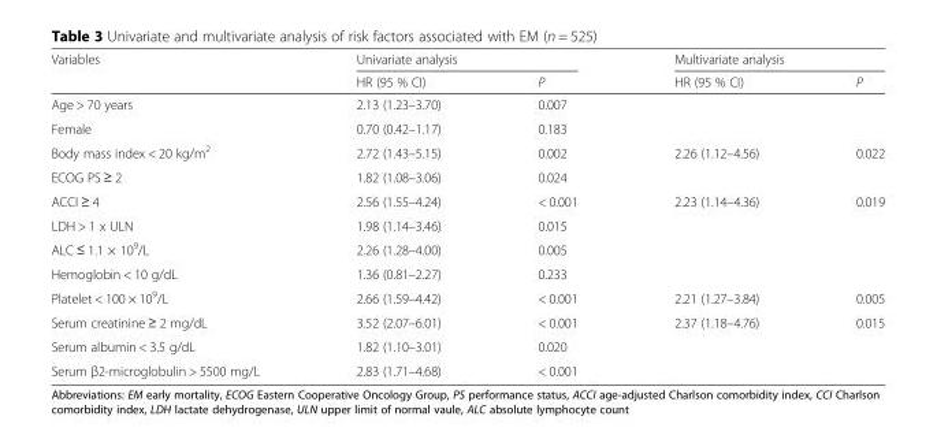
<table><thead><tr><td rowspan="2">Variables</td><td colspan="2">Univariate analysis</td><td colspan="2">Multivariate analysis</td></tr><tr><td>HR (95 % CI)</td><td>P</td><td>HR (95 % CI)</td><td>P</td></tr></thead><tbody><tr><td>Age &gt; 70 years</td><td>2.13 (1.23–3.70)</td><td>0.007</td><td></td><td></td></tr><tr><td>Female</td><td>0.70 (0.42–1.17)</td><td>0.183</td><td></td><td></td></tr><tr><td>Body mass index &lt; 20 kg/m<sup>2</sup></td><td>2.72 (1.43–5.15)</td><td>0.002</td><td>2.26 (1.12–4.56)</td><td>0.022</td></tr><tr><td>ECOG PS ≥ 2</td><td>1.82 (1.08–3.06)</td><td>0.024</td><td></td><td></td></tr><tr><td>ACCI ≥ 4</td><td>2.56 (1.55–4.24)</td><td>&lt; 0.001</td><td>2.23 (1.14–4.36)</td><td>0.019</td></tr><tr><td>LDH &gt; 1 x ULN</td><td>1.98 (1.14–3.46)</td><td>0.015</td><td></td><td></td></tr><tr><td>ALC ≤ 1.1 × 10<sup>9</sup>/L</td><td>2.26 (1.28–4.00)</td><td>0.005</td><td></td><td></td></tr><tr><td>Hemoglobin &lt; 10 g/dL</td><td>1.36 (0.81–2.27)</td><td>0.233</td><td></td><td></td></tr><tr><td>Platelet &lt; 100 × 10<sup>9</sup>/L</td><td>2.66 (1.59–4.42)</td><td>&lt; 0.001</td><td>2.21 (1.27–3.84)</td><td>0.005</td></tr><tr><td>Serum creatinine ≥ 2 mg/dL</td><td>3.52 (2.07–6.01)</td><td>&lt; 0.001</td><td>2.37 (1.18–4.76)</td><td>0.015</td></tr><tr><td>Serum albumin &lt; 3.5 g/dL</td><td>1.82 (1.10–3.01)</td><td>0.020</td><td></td><td></td></tr><tr><td>Serum β2-microglobulin &gt; 5500 mg/L</td><td>2.83 (1.71–4.68)</td><td>&lt; 0.001</td><td></td><td></td></tr></tbody></table>